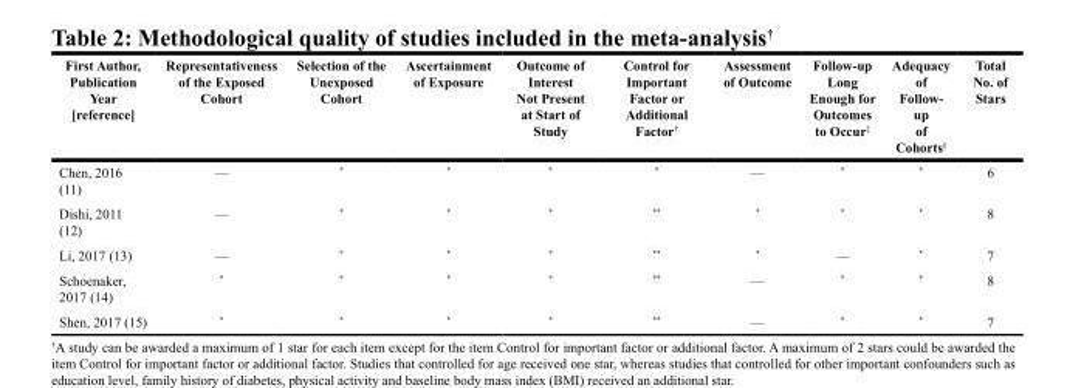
<table><thead><tr><td>First Author, Publication Year [reference]</td><td>Representativeness of the Exposed Cohort</td><td>Selection of the Unexposed Cohort</td><td>Ascertainment of Exposure</td><td>Outcome of Interest Not Present at Start of Study</td><td>Control for Important Factor or Additional Factor<sup>†</sup></td><td>Assessment of Outcome</td><td>Follow-up Long Enough for Outcomes to Occur<sup>‡</sup></td><td>Adequacy of Follow- up of Cohorts<sup>§</sup></td><td>Total No. of Stars</td></tr></thead><tbody><tr><td>Chen, 2016 (11)</td><td>—</td><td>*</td><td>*</td><td>*</td><td>*</td><td>—</td><td>*</td><td>*</td><td>6</td></tr><tr><td>Dishi, 2011 (12)</td><td>—</td><td>*</td><td>*</td><td>*</td><td>**</td><td>*</td><td>*</td><td>*</td><td>8</td></tr><tr><td>Li, 2017 (13)</td><td>—</td><td>*</td><td>*</td><td>*</td><td>**</td><td>*</td><td>—</td><td>*</td><td>7</td></tr><tr><td>Schoenaker, 2017 (14)</td><td>*</td><td>*</td><td>*</td><td>*</td><td>**</td><td>—</td><td>*</td><td>*</td><td>8</td></tr><tr><td>Shen, 2017 (15)</td><td>*</td><td>*</td><td>*</td><td>*</td><td>**</td><td>—</td><td>*</td><td>*</td><td>7</td></tr></tbody></table>